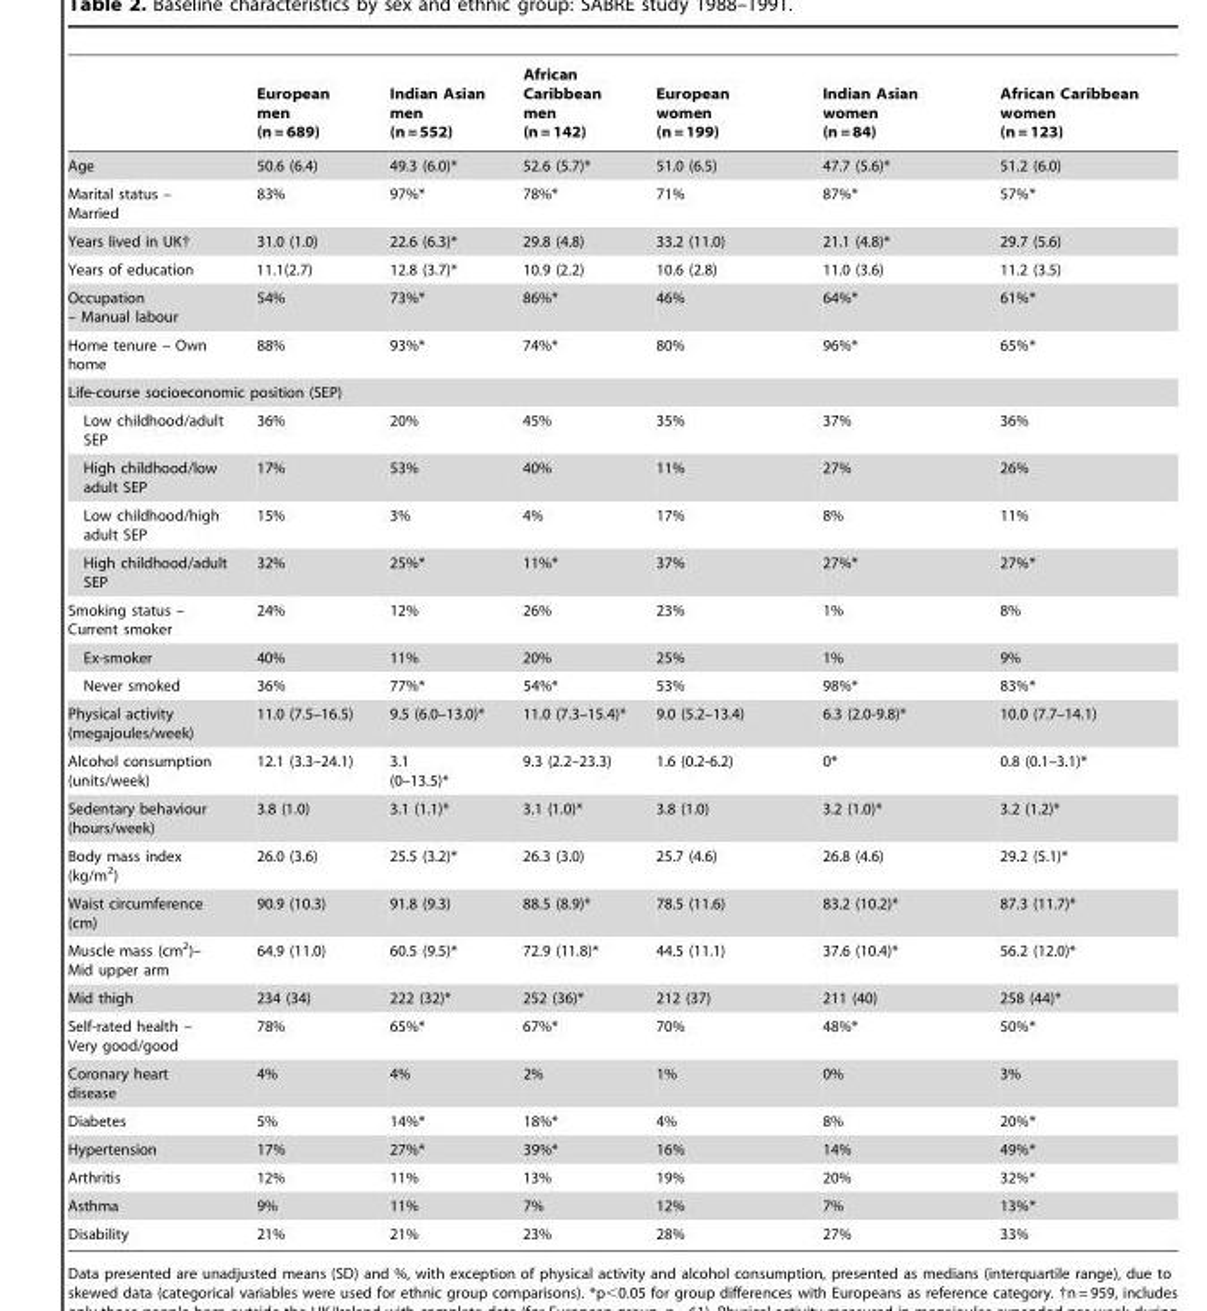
<table><thead><tr><td></td><td>European men (n = 689)</td><td>Indian Asian men (n = 552)</td><td>African Caribbean men (n = 142)</td><td>European women (n = 199)</td><td>Indian Asian women (n = 84)</td><td>African Caribbean women (n = 123)</td></tr></thead><tbody><tr><td>Age</td><td>50.6 (6.4)</td><td>49.3 (6.0)*</td><td>52.6 (5.7)*</td><td>51.0 (6.5)</td><td>47.7 (5.6)*</td><td>51.2 (6.0)</td></tr><tr><td>Marital status – Married</td><td>83%</td><td>97%*</td><td>78%*</td><td>71%</td><td>87%*</td><td>57%*</td></tr><tr><td>Years lived in UK†</td><td>31.0 (1.0)</td><td>22.6 (6.3)*</td><td>29.8 (4.8)</td><td>33.2 (11.0)</td><td>21.1 (4.8)*</td><td>29.7 (5.6)</td></tr><tr><td>Years of education</td><td>11.1(2.7)</td><td>12.8 (3.7)*</td><td>10.9 (2.2)</td><td>10.6 (2.8)</td><td>11.0 (3.6)</td><td>11.2 (3.5)</td></tr><tr><td>Occupation – Manual labour</td><td>54%</td><td>73%*</td><td>86%*</td><td>46%</td><td>64%*</td><td>61%*</td></tr><tr><td>Home tenure – Own home</td><td>88%</td><td>93%*</td><td>74%*</td><td>80%</td><td>96%*</td><td>65%*</td></tr><tr><td colspan="7">Life-course socioeconomic position (SEP)</td></tr><tr><td>Low childhood/adult SEP</td><td>36%</td><td>20%</td><td>45%</td><td>35%</td><td>37%</td><td>36%</td></tr><tr><td>High childhood/low adult SEP</td><td>17%</td><td>53%</td><td>40%</td><td>11%</td><td>27%</td><td>26%</td></tr><tr><td>Low childhood/high adult SEP</td><td>15%</td><td>3%</td><td>4%</td><td>17%</td><td>8%</td><td>11%</td></tr><tr><td>High childhood/adult SEP</td><td>32%</td><td>25%*</td><td>11%*</td><td>37%</td><td>27%*</td><td>27%*</td></tr><tr><td>Smoking status – Current smoker</td><td>24%</td><td>12%</td><td>26%</td><td>23%</td><td>1%</td><td>8%</td></tr><tr><td>Ex-smoker</td><td>40%</td><td>11%</td><td>20%</td><td>25%</td><td>1%</td><td>9%</td></tr><tr><td>Never smoked</td><td>36%</td><td>77%*</td><td>54%*</td><td>53%</td><td>98%*</td><td>83%*</td></tr><tr><td>Physical activity (megajoules/week)</td><td>11.0 (7.5–16.5)</td><td>9.5 (6.0–13.0)*</td><td>11.0 (7.3–15.4)*</td><td>9.0 (5.2–13.4)</td><td>6.3 (2.0-9.8)*</td><td>10.0 (7.7–14.1)</td></tr><tr><td>Alcohol consumption (units/week)</td><td>12.1 (3.3–24.1)</td><td>3.1 (0–13.5)*</td><td>9.3 (2.2–23.3)</td><td>1.6 (0.2-6.2)</td><td>0*</td><td>0.8 (0.1–3.1)*</td></tr><tr><td>Sedentary behaviour (hours/week)</td><td>3.8 (1.0)</td><td>3.1 (1.1)*</td><td>3.1 (1.0)*</td><td>3.8 (1.0)</td><td>3.2 (1.0)*</td><td>3.2 (1.2)*</td></tr><tr><td>Body mass index (kg/m<sup>2</sup>)</td><td>26.0 (3.6)</td><td>25.5 (3.2)*</td><td>26.3 (3.0)</td><td>25.7 (4.6)</td><td>26.8 (4.6)</td><td>29.2 (5.1)*</td></tr><tr><td>Waist circumference (cm)</td><td>90.9 (10.3)</td><td>91.8 (9.3)</td><td>88.5 (8.9)*</td><td>78.5 (11.6)</td><td>83.2 (10.2)*</td><td>87.3 (11.7)*</td></tr><tr><td>Muscle mass (cm<sup>2</sup>)– Mid upper arm</td><td>64.9 (11.0)</td><td>60.5 (9.5)*</td><td>72.9 (11.8)*</td><td>44.5 (11.1)</td><td>37.6 (10.4)*</td><td>56.2 (12.0)*</td></tr><tr><td>Mid thigh</td><td>234 (34)</td><td>222 (32)*</td><td>252 (36)*</td><td>212 (37)</td><td>211 (40)</td><td>258 (44)*</td></tr><tr><td>Self-rated health – Very good/good</td><td>78%</td><td>65%*</td><td>67%*</td><td>70%</td><td>48%*</td><td>50%*</td></tr><tr><td>Coronary heart disease</td><td>4%</td><td>4%</td><td>2%</td><td>1%</td><td>0%</td><td>3%</td></tr><tr><td>Diabetes</td><td>5%</td><td>14%*</td><td>18%*</td><td>4%</td><td>8%</td><td>20%*</td></tr><tr><td>Hypertension</td><td>17%</td><td>27%*</td><td>39%*</td><td>16%</td><td>14%</td><td>49%*</td></tr><tr><td>Arthritis</td><td>12%</td><td>11%</td><td>13%</td><td>19%</td><td>20%</td><td>32%*</td></tr><tr><td>Asthma</td><td>9%</td><td>11%</td><td>7%</td><td>12%</td><td>7%</td><td>13%*</td></tr><tr><td>Disability</td><td>21%</td><td>21%</td><td>23%</td><td>28%</td><td>27%</td><td>33%</td></tr></tbody></table>